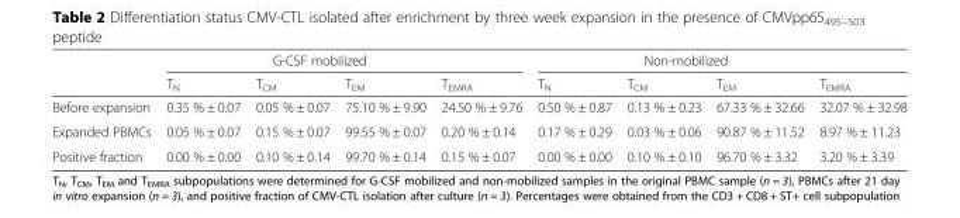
<table><thead><tr><td rowspan="2"></td><td colspan="4">G-CSF mobilized</td><td colspan="4">Non-mobilized</td></tr><tr><td>T<sub>N</sub></td><td>T<sub>CM</sub></td><td>T<sub>EM</sub></td><td>T<sub>EMRA</sub></td><td>T<sub>N</sub></td><td>T<sub>CM</sub></td><td>T<sub>EM</sub></td><td>T<sub>EMRA</sub></td></tr></thead><tbody><tr><td>Before expansion</td><td>0.35 % ± 0.07</td><td>0.05 % ± 0.07</td><td>75.10 % ± 9.90</td><td>24.50 % ± 9.76</td><td>0.50 % ± 0.87</td><td>0.13 % ± 0.23</td><td>67.33 % ± 32.66</td><td>32.07 % ± 32.98</td></tr><tr><td>Expanded PBMCs</td><td>0.05 % ± 0.07</td><td>0.15 % ± 0.07</td><td>99.55 % ± 0.07</td><td>0.20 % ± 0.14</td><td>0.17 % ± 0.29</td><td>0.03 % ± 0.06</td><td>90.87 % ± 11.52</td><td>8.97 % ± 11.23</td></tr><tr><td>Positive fraction</td><td>0.00 % ± 0.00</td><td>0.10 % ± 0.14</td><td>99.70 % ± 0.14</td><td>0.15 % ± 0.07</td><td>0.00 % ± 0.00</td><td>0.10 % ± 0.10</td><td>96.70 % ± 3.32</td><td>3.20 % ± 3.39</td></tr></tbody></table>